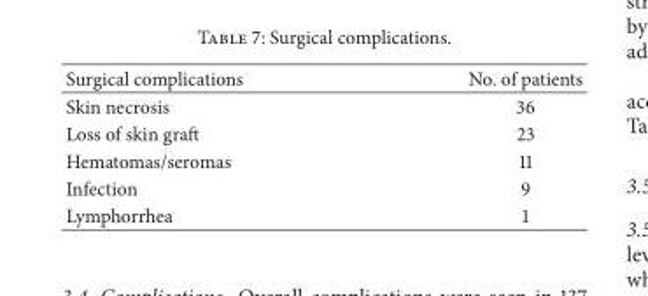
<table><thead><tr><td>Surgical complications</td><td>No. of patients</td></tr></thead><tbody><tr><td>Skin necrosis</td><td>36</td></tr><tr><td>Loss of skin graft</td><td>23</td></tr><tr><td>Hematomas/seromas</td><td>11</td></tr><tr><td>Infection</td><td>9</td></tr><tr><td>Lymphorrhea</td><td>1</td></tr></tbody></table>